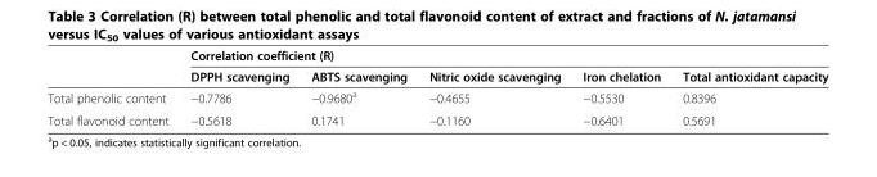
<table><thead><tr><td rowspan="2"></td><td colspan="5">Correlation coefficient (R)</td></tr><tr><td>DPPH scavenging</td><td>ABTS scavenging</td><td>Nitric oxide scavenging</td><td>Iron chelation</td><td>Total antioxidant capacity</td></tr></thead><tbody><tr><td>Total phenolic content</td><td>−0.7786</td><td>−0.9680<sup>a</sup></td><td>−0.4655</td><td>−0.5530</td><td>0.8396</td></tr><tr><td>Total flavonoid content</td><td>−0.5618</td><td>0.1741</td><td>−0.1160</td><td>−0.6401</td><td>0.5691</td></tr></tbody></table>